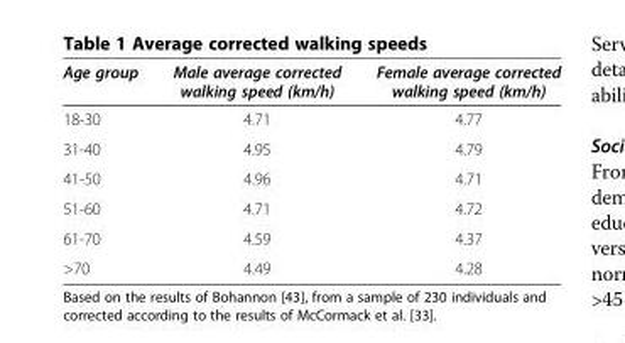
<table><thead><tr><td>Age group</td><td>Male average corrected walking speed (km/h)</td><td>Female average corrected walking speed (km/h)</td></tr></thead><tbody><tr><td>18-30</td><td>4.71</td><td>4.77</td></tr><tr><td>31-40</td><td>4.95</td><td>4.79</td></tr><tr><td>41-50</td><td>4.96</td><td>4.71</td></tr><tr><td>51-60</td><td>4.71</td><td>4.72</td></tr><tr><td>61-70</td><td>4.59</td><td>4.37</td></tr><tr><td>&gt;70</td><td>4.49</td><td>4.28</td></tr></tbody></table>